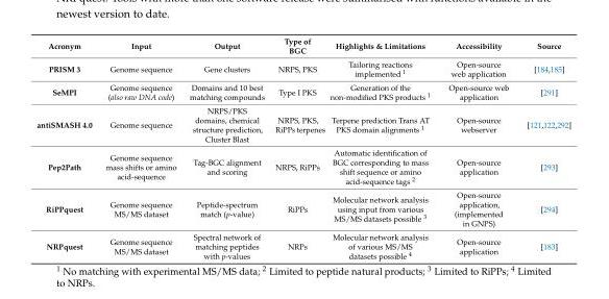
<table><thead><tr><td>Acronym</td><td>Input</td><td>Output</td><td>Type of BGC</td><td>Highlights &amp; Limitations</td><td>Accessibility</td><td>Source</td></tr></thead><tbody><tr><td>PRISM 3</td><td>Genome sequence</td><td>Gene clusters</td><td>NRPS, PKS</td><td>Tailoring reactions implemented <sup>1</sup></td><td>Open-source web application</td><td>[184,185]</td></tr><tr><td>SeMPI</td><td>Genome sequence (also raw DNA code)</td><td>Domains and 10 best matching compounds</td><td>Type I PKS</td><td>Generation of the non-modified PKS products <sup>1</sup></td><td>Open-source web application</td><td>[291]</td></tr><tr><td>antiSMASH 4.0</td><td>Genome sequence</td><td>NRPS/PKS domains, chemical structure prediction, Cluster Blast</td><td>NRPS, PKS, RiPPs terpenes</td><td>Terpene prediction Trans AT PKS domain alignments <sup>1</sup></td><td>Open-source webserver</td><td>[121,122,292]</td></tr><tr><td>Pep2Path</td><td>Genome sequence mass shifts or amino acid-sequence</td><td>Tag-BGC alignment and scoring</td><td>NRPS, RiPPs</td><td>Automatic identification of BGC corresponding to mass shift sequence or amino acid-sequence tags <sup>2</sup></td><td>Open-source application</td><td>[293]</td></tr><tr><td>RiPPquest</td><td>Genome sequence MS/MS dataset</td><td>Peptide-spectrum match (p-value)</td><td>RiPPs</td><td>Molecular network analysis using input from various MS/MS datasets possible <sup>3</sup></td><td>Open-source application, (implemented in GNPS)</td><td>[294]</td></tr><tr><td>NRPquest</td><td>Genome sequence MS/MS dataset</td><td>Spectral network of matching peptides with p-values</td><td>NRPs</td><td>Molecular network analysis of various MS/MS datasets possible <sup>4</sup></td><td>Open-source application</td><td>[183]</td></tr></tbody></table>